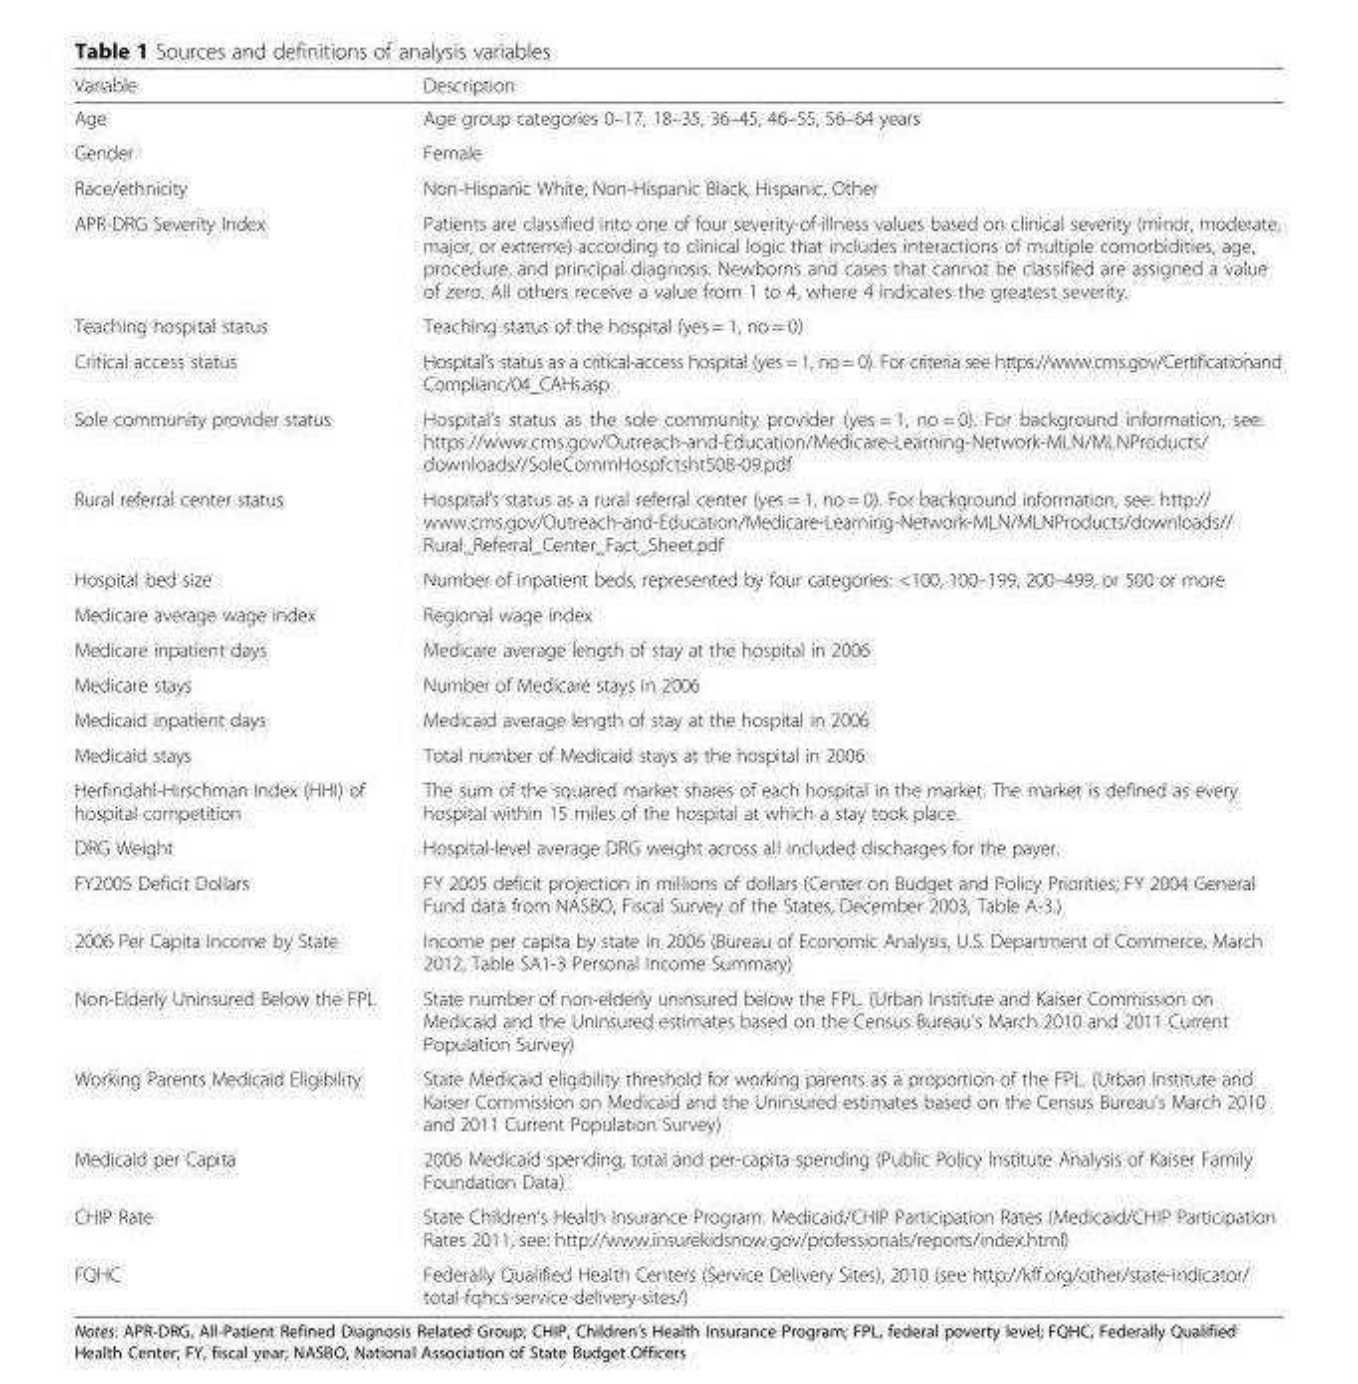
<table><thead><tr><td>Variable</td><td>Description</td></tr></thead><tbody><tr><td>Age</td><td>Age group categories 0–17, 18–35, 36–45, 46–55, 56–64 years</td></tr><tr><td>Gender</td><td>Female</td></tr><tr><td>Race/ethnicity</td><td>Non-Hispanic White, Non-Hispanic Black, Hispanic, Other</td></tr><tr><td>APR-DRG Severity Index</td><td>Patients are classified into one of four severity-of-illness values based on clinical severity (minor, moderate, major, or extreme) according to clinical logic that includes interactions of multiple comorbidities, age, procedure, and principal diagnosis. Newborns and cases that cannot be classified are assigned a value of zero. All others receive a value from 1 to 4, where 4 indicates the greatest severity.</td></tr><tr><td>Teaching hospital status</td><td>Teaching status of the hospital (yes = 1, no = 0)</td></tr><tr><td>Critical access status</td><td>Hospital’s status as a critical-access hospital (yes = 1, no = 0). For criteria see https://www.cms.gov/Certificationand Complianc/04_CAHs.asp</td></tr><tr><td>Sole community provider status</td><td>Hospital’s status as the sole community provider (yes = 1, no = 0). For background information, see: https://www.cms.gov/Outreach-and-Education/Medicare-Learning-Network-MLN/MLNProducts/ downloads//SoleCommHospfctsht508-09.pdf</td></tr><tr><td>Rural referral center status</td><td>Hospital’s status as a rural referral center (yes = 1, no = 0). For background information, see: http:// www.cms.gov/Outreach-and-Education/Medicare-Learning-Network-MLN/MLNProducts/downloads// Rural_Referral_Center_Fact_Sheet.pdf</td></tr><tr><td>Hospital bed size</td><td>Number of inpatient beds, represented by four categories: &lt;100, 100–199, 200–499, or 500 or more</td></tr><tr><td>Medicare average wage index</td><td>Regional wage index</td></tr><tr><td>Medicare inpatient days</td><td>Medicare average length of stay at the hospital in 2006</td></tr><tr><td>Medicare stays</td><td>Number of Medicare stays in 2006</td></tr><tr><td>Medicaid inpatient days</td><td>Medicaid average length of stay at the hospital in 2006</td></tr><tr><td>Medicaid stays</td><td>Total number of Medicaid stays at the hospital in 2006</td></tr><tr><td>Herfindahl-Hirschman Index (HHI) of hospital competition</td><td>The sum of the squared market shares of each hospital in the market. The market is defined as every hospital within 15 miles of the hospital at which a stay took place.</td></tr><tr><td>DRG Weight</td><td>Hospital-level average DRG weight across all included discharges for the payer.</td></tr><tr><td>FY2005 Deficit Dollars</td><td>FY 2005 deficit projection in millions of dollars (Center on Budget and Policy Priorities; FY 2004 General Fund data from NASBO, Fiscal Survey of the States, December 2003, Table A-3.)</td></tr><tr><td>2006 Per Capita Income by State</td><td>Income per capita by state in 2006 (Bureau of Economic Analysis, U.S. Department of Commerce, March 2012, Table SA1-3 Personal Income Summary)</td></tr><tr><td>Non-Elderly Uninsured Below the FPL</td><td>State number of non-elderly uninsured below the FPL. (Urban Institute and Kaiser Commission on Medicaid and the Uninsured estimates based on the Census Bureau’s March 2010 and 2011 Current Population Survey)</td></tr><tr><td>Working Parents Medicaid Eligibility</td><td>State Medicaid eligibility threshold for working parents as a proportion of the FPL. (Urban Institute and Kaiser Commission on Medicaid and the Uninsured estimates based on the Census Bureau’s March 2010 and 2011 Current Population Survey)</td></tr><tr><td>Medicaid per Capita</td><td>2006 Medicaid spending, total and per-capita spending (Public Policy Institute Analysis of Kaiser Family Foundation Data)</td></tr><tr><td>CHIP Rate</td><td>State Children’s Health Insurance Program. Medicaid/CHIP Participation Rates (Medicaid/CHIP Participation Rates 2011, see: http://www.insurekidsnow.gov/professionals/reports/index.html)</td></tr><tr><td>FQHC</td><td>Federally Qualified Health Centers (Service Delivery Sites), 2010 (see http://kff.org/other/state-indicator/ total-fqhcs-service-delivery-sites/)</td></tr></tbody></table>